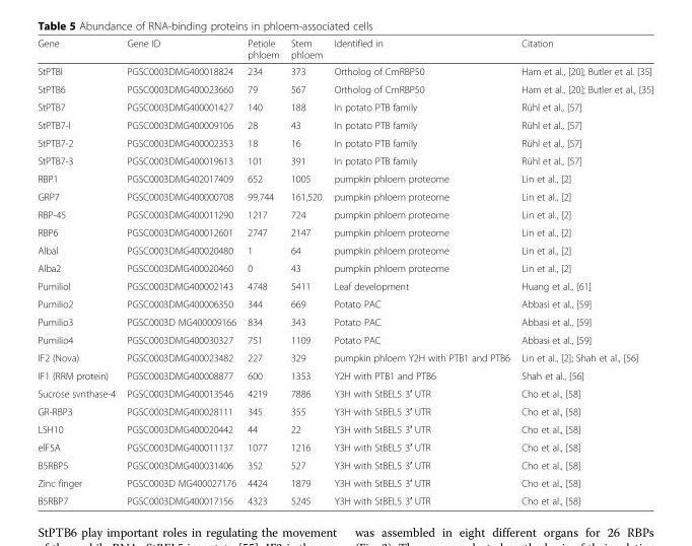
<table><thead><tr><td>Gene</td><td>Gene ID</td><td>Petiole phloem</td><td>Stem phloem</td><td>Identified in</td><td>Citation</td></tr></thead><tbody><tr><td>StPTBl</td><td>PGSC0003DMG400018824</td><td>234</td><td>373</td><td>Ortholog of CmRBP50</td><td>Ham et al., [20]; Butler et al. [35]</td></tr><tr><td>StPTB6</td><td>PGSC0003DMG400023660</td><td>79</td><td>567</td><td>Ortholog of CmRBP50</td><td>Ham et al., [20]; Butler et al., [35]</td></tr><tr><td>StPTB7</td><td>PGSC0003DMG400001427</td><td>140</td><td>188</td><td>In potato PTB family</td><td>Rühl et al., [57]</td></tr><tr><td>StPTB7-l</td><td>PGSC0003DMG400009106</td><td>28</td><td>43</td><td>In potato PTB family</td><td>Rühl et al., [57]</td></tr><tr><td>StPTB7-2</td><td>PGSC0003DMG400002353</td><td>18</td><td>16</td><td>In potato PTB family</td><td>Rühl et al., [57]</td></tr><tr><td>StPTB7-3</td><td>PGSC0003DMG400019613</td><td>101</td><td>391</td><td>In potato PTB family</td><td>Rühl et al., [57]</td></tr><tr><td>RBP1</td><td>PGSC0003DMG402017409</td><td>652</td><td>1005</td><td>pumpkin phloem proteome</td><td>Lin et al., [2]</td></tr><tr><td>GRP7</td><td>PGSC0003DMG400000708</td><td>99,744</td><td>161,520</td><td>pumpkin phloem proteome</td><td>Lin et al., [2]</td></tr><tr><td>RBP-45</td><td>PGSC0003DMG400011290</td><td>1217</td><td>724</td><td>pumpkin phloem proteome</td><td>Lin et al., [2]</td></tr><tr><td>RBP6</td><td>PGSC0003DMG400012601</td><td>2747</td><td>2147</td><td>pumpkin phloem proteome</td><td>Lin et al., [2]</td></tr><tr><td>Albal</td><td>PGSC0003DMG400020480</td><td>1</td><td>64</td><td>pumpkin phloem proteome</td><td>Lin et al., [2]</td></tr><tr><td>Alba2</td><td>PGSC0003DMG400020460</td><td>0</td><td>43</td><td>pumpkin phloem proteome</td><td>Lin et al., [2]</td></tr><tr><td>Pumiliol</td><td>PGSC0003DMG400002143</td><td>4748</td><td>5411</td><td>Leaf development</td><td>Huang et al., [61]</td></tr><tr><td>Pumilio2</td><td>PGSC0003DMG400006350</td><td>344</td><td>669</td><td>Potato PAC</td><td>Abbasi et al., [59]</td></tr><tr><td>Pumilio3</td><td>PGSC0003D MG400009166</td><td>834</td><td>343</td><td>Potato PAC</td><td>Abbasi et al., [59]</td></tr><tr><td>Pumilio4</td><td>PGSC0003DMG400030327</td><td>751</td><td>1109</td><td>Potato PAC</td><td>Abbasi et al., [59]</td></tr><tr><td>IF2 (Nova)</td><td>PGSC0003DMG400023482</td><td>227</td><td>329</td><td>pumpkin phloem Y2H with PTB1 and PTB6</td><td>Lin et al., [2]; Shah et al., [56]</td></tr><tr><td>IF1 (RRM protein)</td><td>PGSC0003DMG400008877</td><td>600</td><td>1353</td><td>Y2H with PTB1 and PTB6</td><td>Shah et al., [56]</td></tr><tr><td>Sucrose svnthase-4</td><td>PGSC0003DMG400013546</td><td>4219</td><td>7886</td><td>Y3H with StBEL5 3′ UTR</td><td>Cho et al., [58]</td></tr><tr><td>GR-RBP3</td><td>PGSC0003DMG400028111</td><td>345</td><td>355</td><td>Y3H with StBEL5 3′ UTR</td><td>Cho et al., [58]</td></tr><tr><td>LSH10</td><td>PGSC0003DMG400020442</td><td>44</td><td>22</td><td>Y3H with StBEL5 3′ UTR</td><td>Cho et al., [58]</td></tr><tr><td>elF5A</td><td>PGSC0003DMG400011137</td><td>1077</td><td>1216</td><td>Y3H with StBEL5 3′ UTR</td><td>Cho et al., [58]</td></tr><tr><td>B5RBP5</td><td>PGSC0003DMG400031406</td><td>352</td><td>527</td><td>Y3H with StBEL5 3′ UTR</td><td>Cho et al., [58]</td></tr><tr><td>Zinc finger</td><td>PGSC0003D MG400027176</td><td>4424</td><td>1879</td><td>Y3H with StBEL5 3′ UTR</td><td>Cho et al., [58]</td></tr><tr><td>B5RBP7</td><td>PGSC0003DMG400017156</td><td>4323</td><td>5245</td><td>Y3H with StBEL5 3′ UTR</td><td>Cho et al., [58]</td></tr></tbody></table>